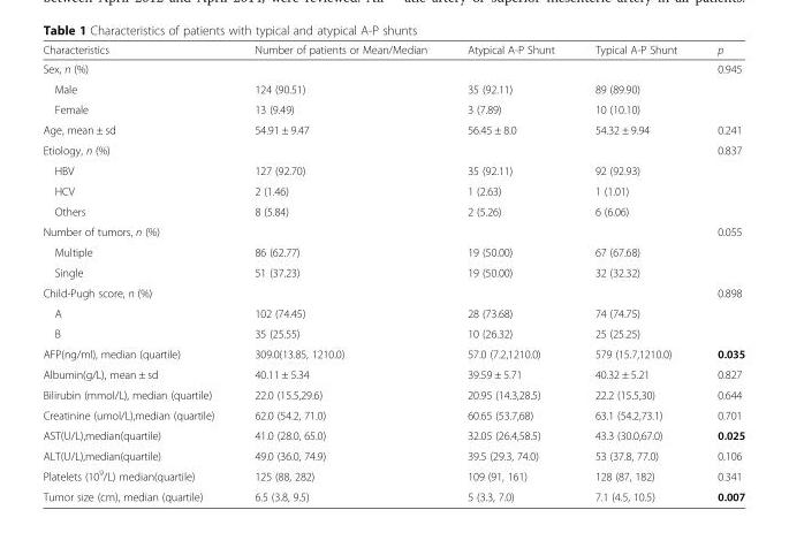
<table><thead><tr><td>Characteristics</td><td>Number of patients or Mean/Median</td><td>Atypical A-P Shunt</td><td>Typical A-P Shunt</td><td>p</td></tr></thead><tbody><tr><td>Sex, n (%)</td><td></td><td></td><td></td><td>0.945</td></tr><tr><td>Male</td><td>124 (90.51)</td><td>35 (92.11)</td><td>89 (89.90)</td><td></td></tr><tr><td>Female</td><td>13 (9.49)</td><td>3 (7.89)</td><td>10 (10.10)</td><td></td></tr><tr><td>Age, mean ± sd</td><td>54.91 ± 9.47</td><td>56.45 ± 8.0</td><td>54.32 ± 9.94</td><td>0.241</td></tr><tr><td>Etiology, n (%)</td><td></td><td></td><td></td><td>0.837</td></tr><tr><td>HBV</td><td>127 (92.70)</td><td>35 (92.11)</td><td>92 (92.93)</td><td></td></tr><tr><td>HCV</td><td>2 (1.46)</td><td>1 (2.63)</td><td>1 (1.01)</td><td></td></tr><tr><td>Others</td><td>8 (5.84)</td><td>2 (5.26)</td><td>6 (6.06)</td><td></td></tr><tr><td>Number of tumors, n (%)</td><td></td><td></td><td></td><td>0.055</td></tr><tr><td>Multiple</td><td>86 (62.77)</td><td>19 (50.00)</td><td>67 (67.68)</td><td></td></tr><tr><td>Single</td><td>51 (37.23)</td><td>19 (50.00)</td><td>32 (32.32)</td><td></td></tr><tr><td>Child-Pugh score, n (%)</td><td></td><td></td><td></td><td>0.898</td></tr><tr><td>A</td><td>102 (74.45)</td><td>28 (73.68)</td><td>74 (74.75)</td><td></td></tr><tr><td>B</td><td>35 (25.55)</td><td>10 (26.32)</td><td>25 (25.25)</td><td></td></tr><tr><td>AFP(ng/ml), median (quartile)</td><td>309.0(13.85, 1210.0)</td><td>57.0 (7.2,1210.0)</td><td>579 (15.7,1210.0)</td><td>0.035</td></tr><tr><td>Albumin(g/L), mean ± sd</td><td>40.11 ± 5.34</td><td>39.59 ± 5.71</td><td>40.32 ± 5.21</td><td>0.827</td></tr><tr><td>Bilirubin (mmol/L), median (quartile)</td><td>22.0 (15.5,29.6)</td><td>20.95 (14.3,28.5)</td><td>22.2 (15.5,30)</td><td>0.644</td></tr><tr><td>Creatinine (umol/L),median (quartile)</td><td>62.0 (54.2, 71.0)</td><td>60.65 (53.7,68)</td><td>63.1 (54.2,73.1)</td><td>0.701</td></tr><tr><td>AST(U/L),median(quartile)</td><td>41.0 (28.0, 65.0)</td><td>32.05 (26.4,58.5)</td><td>43.3 (30.0,67.0)</td><td>0.025</td></tr><tr><td>ALT(U/L),median(quartile)</td><td>49.0 (36.0, 74.9)</td><td>39.5 (29.3, 74.0)</td><td>53 (37.8, 77.0)</td><td>0.106</td></tr><tr><td>Platelets (10<sup>9</sup>/L) median(quartile)</td><td>125 (88, 282)</td><td>109 (91, 161)</td><td>128 (87, 182)</td><td>0.341</td></tr><tr><td>Tumor size (cm), median (quartile)</td><td>6.5 (3.8, 9.5)</td><td>5 (3.3, 7.0)</td><td>7.1 (4.5, 10.5)</td><td>0.007</td></tr></tbody></table>